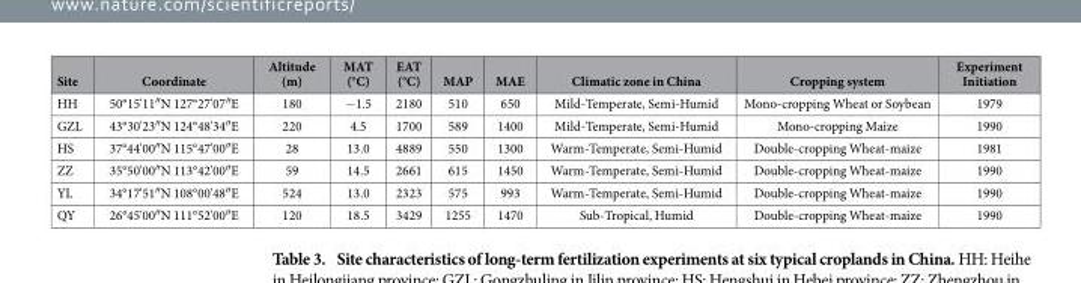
<table><thead><tr><td>Site</td><td>Coordinate</td><td>Altitude (m)</td><td>MAT (°C)</td><td>EAT (°C)</td><td>MAP</td><td>MAE</td><td>Climatic zone in China</td><td>Cropping system</td><td>Experiment Initiation</td></tr></thead><tbody><tr><td>HH</td><td>50°15&#x27;11″N 127°27&#x27;07″E</td><td>180</td><td>− 1.5</td><td>2180</td><td>510</td><td>650</td><td>Mild-Temperate, Semi-Humid</td><td>Mono-cropping Wheat or Soybean</td><td>1979</td></tr><tr><td>GZL</td><td>43°30&#x27;23″N 124°48&#x27;34″E</td><td>220</td><td>4.5</td><td>1700</td><td>589</td><td>1400</td><td>Mild-Temperate, Semi-Humid</td><td>Mono-cropping Maize</td><td>1990</td></tr><tr><td>HS</td><td>37°44&#x27;00″N 115°47&#x27;00″E</td><td>28</td><td>13.0</td><td>4889</td><td>550</td><td>1300</td><td>Warm-Temperate, Semi-Humid</td><td>Double-cropping Wheat-maize</td><td>1981</td></tr><tr><td>ZZ</td><td>35°50&#x27;00″N 113°42&#x27;00″E</td><td>59</td><td>14.5</td><td>2661</td><td>615</td><td>1450</td><td>Warm-Temperate, Semi-Humid</td><td>Double-cropping Wheat-maize</td><td>1990</td></tr><tr><td>YL</td><td>34°17&#x27;51″N 108°00&#x27;48″E</td><td>524</td><td>13.0</td><td>2323</td><td>575</td><td>993</td><td>Warm-Temperate, Semi-Humid</td><td>Double-cropping Wheat-maize</td><td>1990</td></tr><tr><td>QY</td><td>26°45&#x27;00″N 111°52&#x27;00″E</td><td>120</td><td>18.5</td><td>3429</td><td>1255</td><td>1470</td><td>Sub-Tropical, Humid</td><td>Double-cropping Wheat-maize</td><td>1990</td></tr></tbody></table>